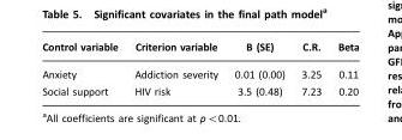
<table><thead><tr><td>Control variable</td><td>Criterion variable</td><td>B (SE)</td><td>C.R.</td><td>Beta</td></tr></thead><tbody><tr><td>Anxiety</td><td>Addiction severity</td><td>0.01 (0.00)</td><td>3.25</td><td>0.11</td></tr><tr><td>Social support</td><td>HIV risk</td><td>3.5 (0.48)</td><td>7.23</td><td>0.20</td></tr></tbody></table>